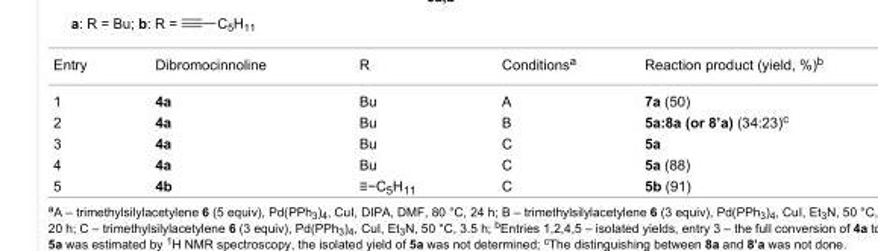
<table><tbody><tr><td>Entry</td><td>Dibromocinnoline</td><td>R</td><td>Conditions<sup>a</sup></td><td>Reaction product (yield, %)<sup>b</sup></td></tr><tr><td>1</td><td>4a</td><td>Bu</td><td>A</td><td>7a (50)</td></tr><tr><td>2</td><td>4a</td><td>Bu</td><td>B</td><td>5a:8a (or 8’a) (34:23)<sup>c</sup></td></tr><tr><td>3</td><td>4a</td><td>Bu</td><td>C</td><td>5a</td></tr><tr><td>4</td><td>4a</td><td>Bu</td><td>C</td><td>5a (88)</td></tr><tr><td>5</td><td>4b</td><td>≡−C<sub>5</sub>H<sub>11</sub></td><td>C</td><td>5b (91)</td></tr></tbody></table>